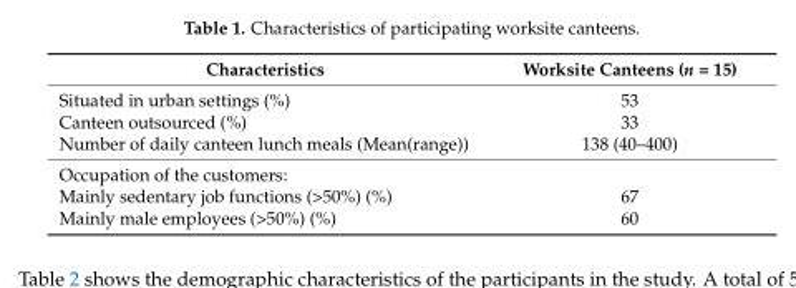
<table><thead><tr><td>Characteristics</td><td>Worksite Canteens (n = 15)</td></tr></thead><tbody><tr><td>Situated in urban settings (%)</td><td>53</td></tr><tr><td>Canteen outsourced (%)</td><td>33</td></tr><tr><td>Number of daily canteen lunch meals (Mean(range))</td><td>138 (40–400)</td></tr><tr><td colspan="2">Occupation of the customers:</td></tr><tr><td>Mainly sedentary job functions (&gt;50%) (%)</td><td>67</td></tr><tr><td>Mainly male employees (&gt;50%) (%)</td><td>60</td></tr></tbody></table>